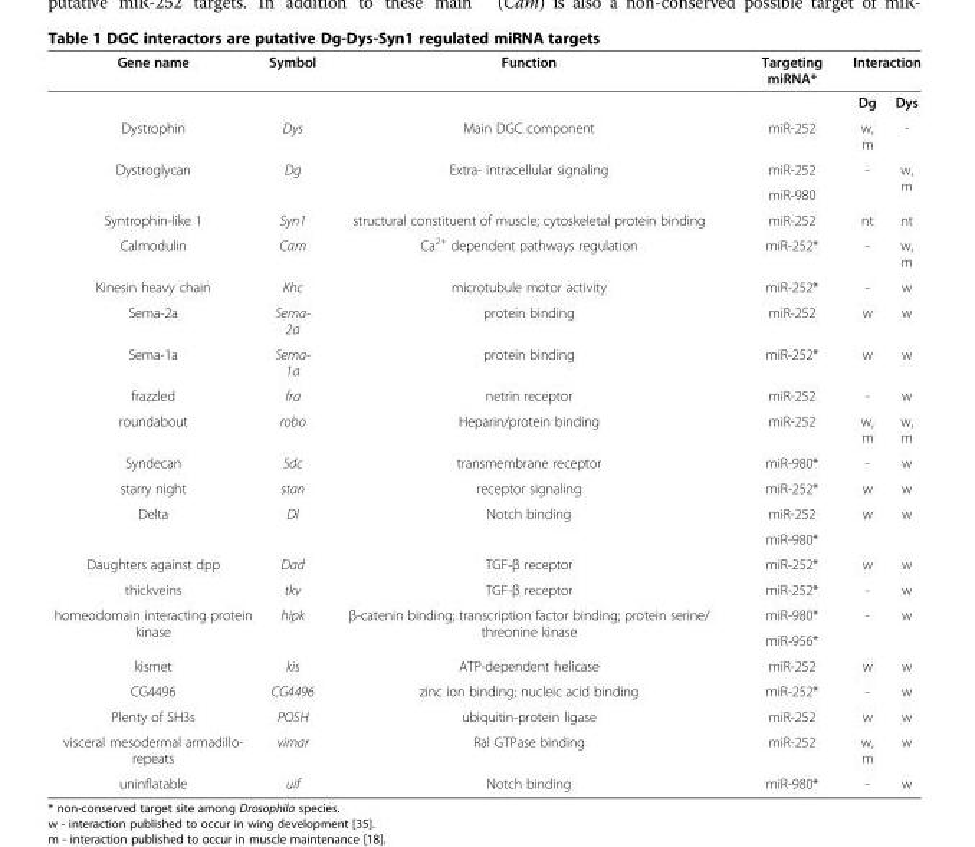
<table><thead><tr><td rowspan="2">Gene name</td><td rowspan="2">Symbol</td><td rowspan="2">Function</td><td rowspan="2">Targeting miRNA*</td><td colspan="2">Interaction</td></tr><tr><td>Dg</td><td>Dys</td></tr></thead><tbody><tr><td>Dystrophin</td><td>Dys</td><td>Main DGC component</td><td>miR-252</td><td>w, m</td><td>-</td></tr><tr><td rowspan="2">Dystroglycan</td><td rowspan="2">Dg</td><td rowspan="2">Extra- intracellular signaling</td><td>miR-252</td><td rowspan="2">-</td><td rowspan="2">w, m</td></tr><tr><td>miR-980</td></tr><tr><td>Syntrophin-like 1</td><td>Syn1</td><td>structural constituent of muscle; cytoskeletal protein binding</td><td>miR-252</td><td>nt</td><td>nt</td></tr><tr><td>Calmodulin</td><td>Cam</td><td>Ca<sup>2+</sup> dependent pathways regulation</td><td>miR-252*</td><td>-</td><td>w, m</td></tr><tr><td>Kinesin heavy chain</td><td>Khc</td><td>microtubule motor activity</td><td>miR-252*</td><td>-</td><td>w</td></tr><tr><td>Sema-2a</td><td>Sema- 2a</td><td>protein binding</td><td>miR-252</td><td>w</td><td>w</td></tr><tr><td>Sema-1a</td><td>Sema- 1a</td><td>protein binding</td><td>miR-252*</td><td>w</td><td>w</td></tr><tr><td>frazzled</td><td>fra</td><td>netrin receptor</td><td>miR-252</td><td>-</td><td>w</td></tr><tr><td>roundabout</td><td>robo</td><td>Heparin/protein binding</td><td>miR-252</td><td>w, m</td><td>w, m</td></tr><tr><td>Syndecan</td><td>Sdc</td><td>transmembrane receptor</td><td>miR-980*</td><td>-</td><td>w</td></tr><tr><td>starry night</td><td>stan</td><td>receptor signaling</td><td>miR-252*</td><td>w</td><td>w</td></tr><tr><td rowspan="2">Delta</td><td rowspan="2">Dl</td><td rowspan="2">Notch binding</td><td>miR-252</td><td rowspan="2">w</td><td rowspan="2">w</td></tr><tr><td>miR-980*</td></tr><tr><td>Daughters against dpp</td><td>Dad</td><td>TGF-β receptor</td><td>miR-252*</td><td>w</td><td>w</td></tr><tr><td>thickveins</td><td>tkv</td><td>TGF-β receptor</td><td>miR-252*</td><td>-</td><td>w</td></tr><tr><td rowspan="2">homeodomain interacting protein kinase</td><td rowspan="2">hipk</td><td rowspan="2">β-catenin binding; transcription factor binding; protein serine/ threonine kinase</td><td>miR-980*</td><td rowspan="2">-</td><td rowspan="2">w</td></tr><tr><td>miR-956*</td></tr><tr><td>kismet</td><td>kis</td><td>ATP-dependent helicase</td><td>miR-252</td><td>w</td><td>w</td></tr><tr><td>CG4496</td><td>CG4496</td><td>zinc ion binding; nucleic acid binding</td><td>miR-252*</td><td>-</td><td>w</td></tr><tr><td>Plenty of SH3s</td><td>POSH</td><td>ubiquitin-protein ligase</td><td>miR-252</td><td>w</td><td>w</td></tr><tr><td>visceral mesodermal armadillo- repeats</td><td>vimar</td><td>Ral GTPase binding</td><td>miR-252</td><td>w, m</td><td>w</td></tr><tr><td>uninflatable</td><td>uif</td><td>Notch binding</td><td>miR-980*</td><td>-</td><td>w</td></tr></tbody></table>